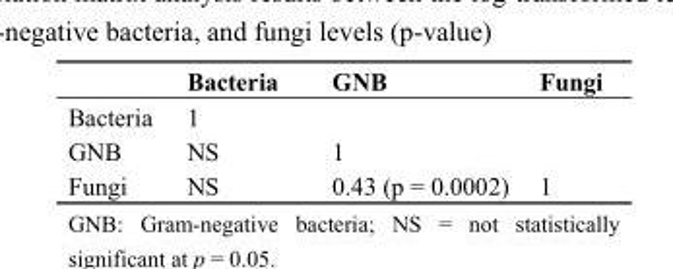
<table><thead><tr><td></td><td>Bacteria</td><td>GNB</td><td>Fungi</td></tr></thead><tbody><tr><td>Bacteria</td><td>1</td><td></td><td></td></tr><tr><td>GNB</td><td>NS</td><td>1</td><td></td></tr><tr><td>Fungi</td><td>NS</td><td>0.43 (p = 0.0002)</td><td>1</td></tr></tbody></table>